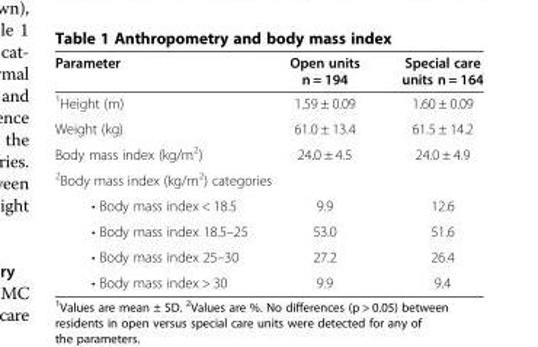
<table><thead><tr><td>Parameter</td><td>Open units n = 194</td><td>Special care units n = 164</td></tr></thead><tbody><tr><td><sup>1</sup>Height (m)</td><td>1.59 ± 0.09</td><td>1.60 ± 0.09</td></tr><tr><td>Weight (kg)</td><td>61.0 ± 13.4</td><td>61.5 ± 14.2</td></tr><tr><td>Body mass index (kg/m<sup>2</sup>)</td><td>24.0 ± 4.5</td><td>24.0 ± 4.9</td></tr><tr><td colspan="3"><sup>2</sup>Body mass index (kg/m<sup>2</sup>) categories</td></tr><tr><td>• Body mass index &lt; 18.5</td><td>9.9</td><td>12.6</td></tr><tr><td>• Body mass index 18.5–25</td><td>53.0</td><td>51.6</td></tr><tr><td>• Body mass index 25–30</td><td>27.2</td><td>26.4</td></tr><tr><td>• Body mass index &gt; 30</td><td>9.9</td><td>9.4</td></tr></tbody></table>